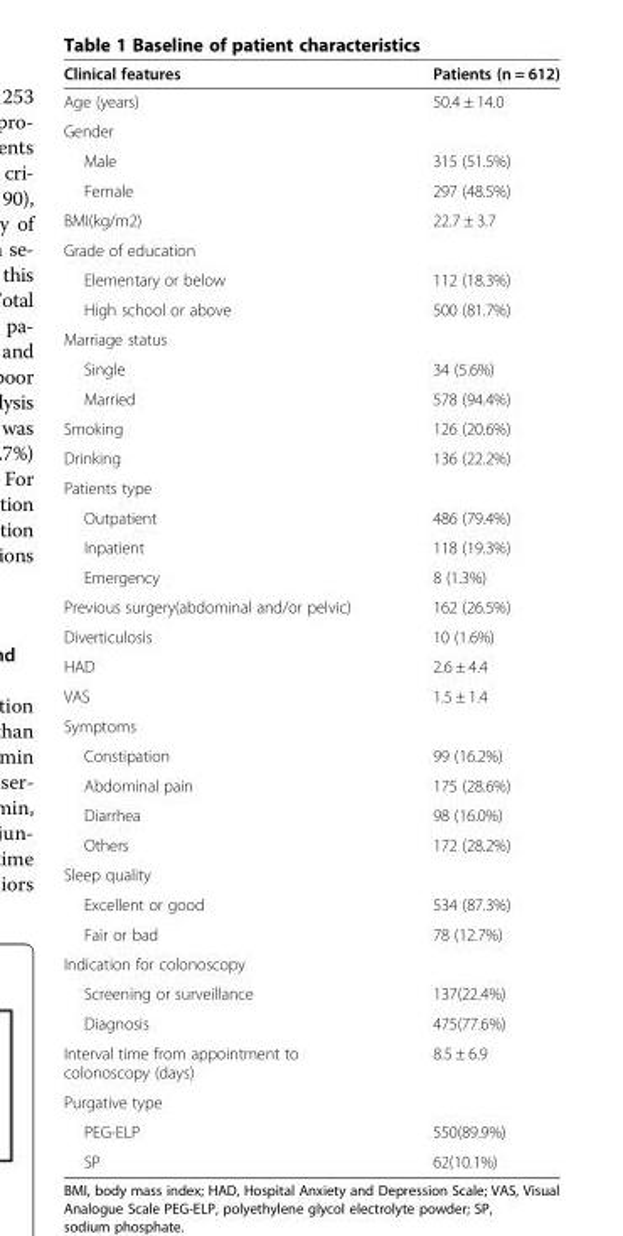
<table><thead><tr><td>Clinical features</td><td>Patients (n = 612)</td></tr></thead><tbody><tr><td>Age (years)</td><td>50.4 ± 14.0</td></tr><tr><td colspan="2">Gender</td></tr><tr><td>Male</td><td>315 (51.5%)</td></tr><tr><td>Female</td><td>297 (48.5%)</td></tr><tr><td>BMI(kg/m2)</td><td>22.7 ± 3.7</td></tr><tr><td colspan="2">Grade of education</td></tr><tr><td>Elementary or below</td><td>112 (18.3%)</td></tr><tr><td>High school or above</td><td>500 (81.7%)</td></tr><tr><td colspan="2">Marriage status</td></tr><tr><td>Single</td><td>34 (5.6%)</td></tr><tr><td>Married</td><td>578 (94.4%)</td></tr><tr><td>Smoking</td><td>126 (20.6%)</td></tr><tr><td>Drinking</td><td>136 (22.2%)</td></tr><tr><td colspan="2">Patients type</td></tr><tr><td>Outpatient</td><td>486 (79.4%)</td></tr><tr><td>Inpatient</td><td>118 (19.3%)</td></tr><tr><td>Emergency</td><td>8 (1.3%)</td></tr><tr><td>Previous surgery(abdominal and/or pelvic)</td><td>162 (26.5%)</td></tr><tr><td>Diverticulosis</td><td>10 (1.6%)</td></tr><tr><td>HAD</td><td>2.6 ± 4.4</td></tr><tr><td>VAS</td><td>1.5 ± 1.4</td></tr><tr><td colspan="2">Symptoms</td></tr><tr><td>Constipation</td><td>99 (16.2%)</td></tr><tr><td>Abdominal pain</td><td>175 (28.6%)</td></tr><tr><td>Diarrhea</td><td>98 (16.0%)</td></tr><tr><td>Others</td><td>172 (28.2%)</td></tr><tr><td colspan="2">Sleep quality</td></tr><tr><td>Excellent or good</td><td>534 (87.3%)</td></tr><tr><td>Fair or bad</td><td>78 (12.7%)</td></tr><tr><td colspan="2">Indication for colonoscopy</td></tr><tr><td>Screening or surveillance</td><td>137(22.4%)</td></tr><tr><td>Diagnosis</td><td>475(77.6%)</td></tr><tr><td>Interval time from appointment to colonoscopy (days)</td><td>8.5 ± 6.9</td></tr><tr><td colspan="2">Purgative type</td></tr><tr><td>PEG-ELP</td><td>550(89.9%)</td></tr><tr><td>SP</td><td>62(10.1%)</td></tr></tbody></table>